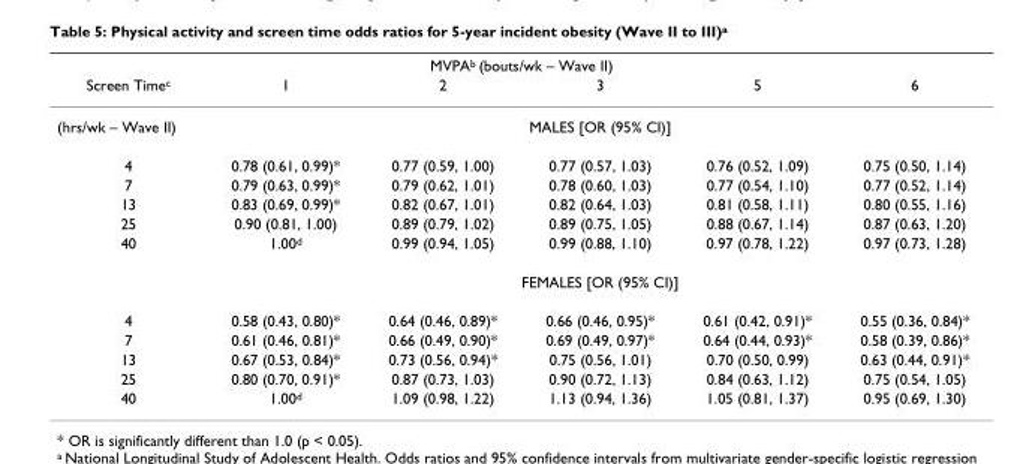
<table><thead><tr><td colspan="6">MVPA<sup>b</sup> (bouts/wk – Wave II)</td></tr><tr><td>Screen Time<sup>c</sup></td><td>1</td><td>2</td><td>3</td><td>5</td><td>6</td></tr></thead><tbody><tr><td>(hrs/wk – Wave II)</td><td colspan="5">MALES [OR (95% CI)]</td></tr><tr><td>4</td><td>0.78 (0.61, 0.99)*</td><td>0.77 (0.59, 1.00)</td><td>0.77 (0.57, 1.03)</td><td>0.76 (0.52, 1.09)</td><td>0.75 (0.50, 1.14)</td></tr><tr><td>7</td><td>0.79 (0.63, 0.99)*</td><td>0.79 (0.62, 1.01)</td><td>0.78 (0.60, 1.03)</td><td>0.77 (0.54, 1.10)</td><td>0.77 (0.52, 1.14)</td></tr><tr><td>13</td><td>0.83 (0.69, 0.99)*</td><td>0.82 (0.67, 1.01)</td><td>0.82 (0.64, 1.03)</td><td>0.81 (0.58, 1.11)</td><td>0.80 (0.55, 1.16)</td></tr><tr><td>25</td><td>0.90 (0.81, 1.00)</td><td>0.89 (0.79, 1.02)</td><td>0.89 (0.75, 1.05)</td><td>0.88 (0.67, 1.14)</td><td>0.87 (0.63, 1.20)</td></tr><tr><td rowspan="2">40</td><td>1.00<sup>d</sup></td><td>0.99 (0.94, 1.05)</td><td>0.99 (0.88, 1.10)</td><td>0.97 (0.78, 1.22)</td><td>0.97 (0.73, 1.28)</td></tr><tr><td colspan="5">FEMALES [OR (95% CI)]</td></tr><tr><td>4</td><td>0.58 (0.43, 0.80)*</td><td>0.64 (0.46, 0.89)*</td><td>0.66 (0.46, 0.95)*</td><td>0.61 (0.42, 0.91)*</td><td>0.55 (0.36, 0.84)*</td></tr><tr><td>7</td><td>0.61 (0.46, 0.81)*</td><td>0.66 (0.49, 0.90)*</td><td>0.69 (0.49, 0.97)*</td><td>0.64 (0.44, 0.93)*</td><td>0.58 (0.39, 0.86)*</td></tr><tr><td>13</td><td>0.67 (0.53, 0.84)*</td><td>0.73 (0.56, 0.94)*</td><td>0.75 (0.56, 1.01)</td><td>0.70 (0.50, 0.99)</td><td>0.63 (0.44, 0.91)*</td></tr><tr><td>25</td><td>0.80 (0.70, 0.91)*</td><td>0.87 (0.73, 1.03)</td><td>0.90 (0.72, 1.13)</td><td>0.84 (0.63, 1.12)</td><td>0.75 (0.54, 1.05)</td></tr><tr><td>40</td><td>1.00<sup>d</sup></td><td>1.09 (0.98, 1.22)</td><td>1.13 (0.94, 1.36)</td><td>1.05 (0.81, 1.37)</td><td>0.95 (0.69, 1.30)</td></tr></tbody></table>